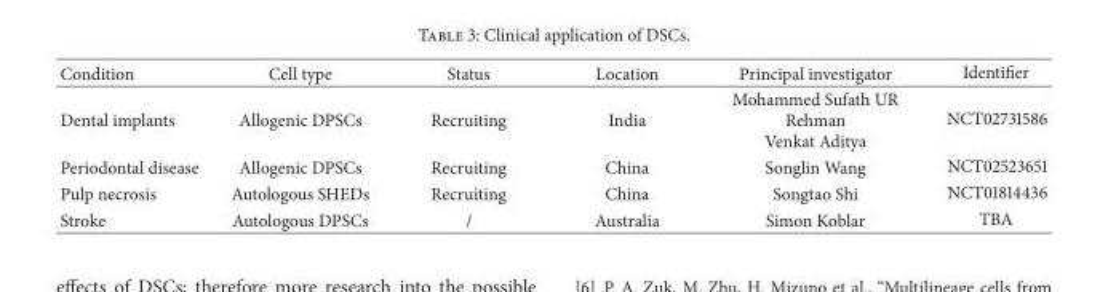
<table><thead><tr><td>Condition</td><td>Cell type</td><td>Status</td><td>Location</td><td>Principal investigator</td><td>Identifier</td></tr></thead><tbody><tr><td>Dental implants</td><td>Allogenic DPSCs</td><td>Recruiting</td><td>India</td><td>Mohammed Sufath UR Rehman Venkat Aditya</td><td>NCT02731586</td></tr><tr><td>Periodontal disease</td><td>Allogenic DPSCs</td><td>Recruiting</td><td>China</td><td>Songlin Wang</td><td>NCT02523651</td></tr><tr><td>Pulp necrosis</td><td>Autologous SHEDs</td><td>Recruiting</td><td>China</td><td>Songtao Shi</td><td>NCT01814436</td></tr><tr><td>Stroke</td><td>Autologous DPSCs</td><td>/</td><td>Australia</td><td>Simon Koblar</td><td>TBA</td></tr></tbody></table>